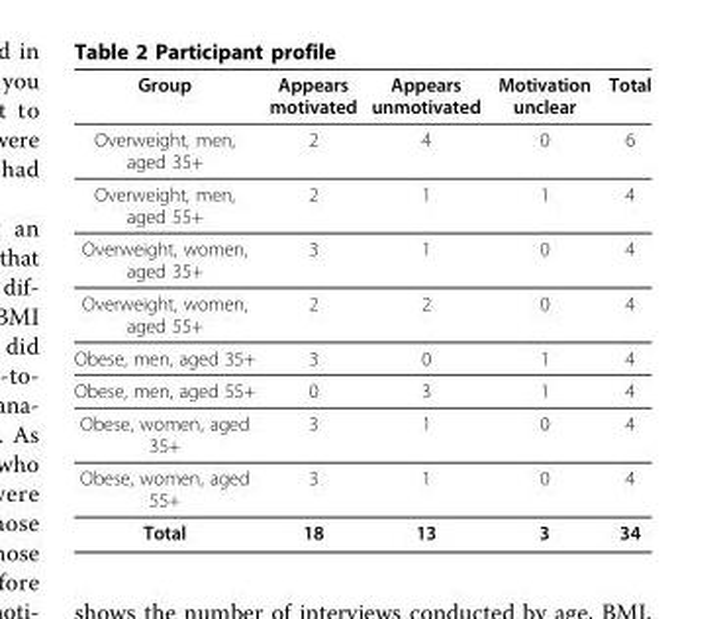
<table><thead><tr><td>Group</td><td>Appears motivated</td><td>Appears unmotivated</td><td>Motivation unclear</td><td>Total</td></tr></thead><tbody><tr><td>Overweight, men, aged 35+</td><td>2</td><td>4</td><td>0</td><td>6</td></tr><tr><td>Overweight, men, aged 55+</td><td>2</td><td>1</td><td>1</td><td>4</td></tr><tr><td>Overweight, women, aged 35+</td><td>3</td><td>1</td><td>0</td><td>4</td></tr><tr><td>Overweight, women, aged 55+</td><td>2</td><td>2</td><td>0</td><td>4</td></tr><tr><td>Obese, men, aged 35+</td><td>3</td><td>0</td><td>1</td><td>4</td></tr><tr><td>Obese, men, aged 55+</td><td>0</td><td>3</td><td>1</td><td>4</td></tr><tr><td>Obese, women, aged 35+</td><td>3</td><td>1</td><td>0</td><td>4</td></tr><tr><td>Obese, women, aged 55+</td><td>3</td><td>1</td><td>0</td><td>4</td></tr><tr><td>Total</td><td>18</td><td>13</td><td>3</td><td>34</td></tr></tbody></table>